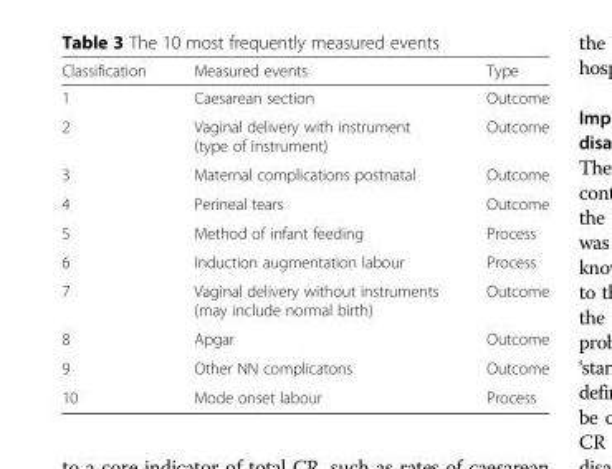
<table><thead><tr><td>Classification</td><td>Measured events</td><td>Type</td></tr></thead><tbody><tr><td>1</td><td>Caesarean section</td><td>Outcome</td></tr><tr><td>2</td><td>Vaginal delivery with instrument (type of instrument)</td><td>Outcome</td></tr><tr><td>3</td><td>Maternal complications postnatal</td><td>Outcome</td></tr><tr><td>4</td><td>Perineal tears</td><td>Outcome</td></tr><tr><td>5</td><td>Method of infant feeding</td><td>Process</td></tr><tr><td>6</td><td>Induction augmentation labour</td><td>Process</td></tr><tr><td>7</td><td>Vaginal delivery without instruments (may include normal birth)</td><td>Outcome</td></tr><tr><td>8</td><td>Apgar</td><td>Outcome</td></tr><tr><td>9</td><td>Other NN complicatons</td><td>Outcome</td></tr><tr><td>10</td><td>Mode onset labour</td><td>Process</td></tr></tbody></table>